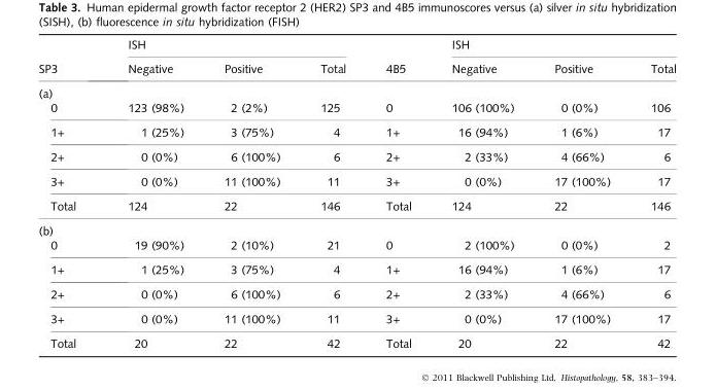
<table><thead><tr><td rowspan="2">SP3</td><td colspan="3">ISH</td><td rowspan="2">4B5</td><td colspan="3">ISH</td></tr><tr><td>Negative</td><td>Positive</td><td>Total</td><td>Negative</td><td>Positive</td><td>Total</td></tr></thead><tbody><tr><td colspan="8">(a)</td></tr><tr><td>0</td><td>123 (98%)</td><td>2 (2%)</td><td>125</td><td>0</td><td>106 (100%)</td><td>0 (0%)</td><td>106</td></tr><tr><td>1+</td><td>1 (25%)</td><td>3 (75%)</td><td>4</td><td>1+</td><td>16 (94%)</td><td>1 (6%)</td><td>17</td></tr><tr><td>2+</td><td>0 (0%)</td><td>6 (100%)</td><td>6</td><td>2+</td><td>2 (33%)</td><td>4 (66%)</td><td>6</td></tr><tr><td>3+</td><td>0 (0%)</td><td>11 (100%)</td><td>11</td><td>3+</td><td>0 (0%)</td><td>17 (100%)</td><td>17</td></tr><tr><td>Total</td><td>124</td><td>22</td><td>146</td><td>Total</td><td>124</td><td>22</td><td>146</td></tr><tr><td colspan="8">(b)</td></tr><tr><td>0</td><td>19 (90%)</td><td>2 (10%)</td><td>21</td><td>0</td><td>2 (100%)</td><td>0 (0%)</td><td>2</td></tr><tr><td>1+</td><td>1 (25%)</td><td>3 (75%)</td><td>4</td><td>1+</td><td>16 (94%)</td><td>1 (6%)</td><td>17</td></tr><tr><td>2+</td><td>0 (0%)</td><td>6 (100%)</td><td>6</td><td>2+</td><td>2 (33%)</td><td>4 (66%)</td><td>6</td></tr><tr><td>3+</td><td>0 (0%)</td><td>11 (100%)</td><td>11</td><td>3+</td><td>0 (0%)</td><td>17 (100%)</td><td>17</td></tr><tr><td>Total</td><td>20</td><td>22</td><td>42</td><td>Total</td><td>20</td><td>22</td><td>42</td></tr></tbody></table>